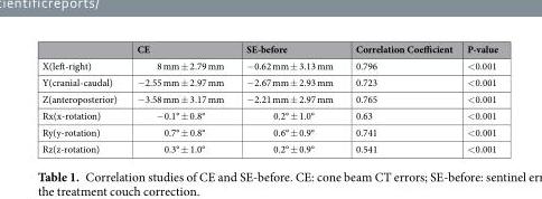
<table><thead><tr><td></td><td>CE</td><td>SE-before</td><td>Correlation Coefficient</td><td>P-value</td></tr></thead><tbody><tr><td>X(left-right)</td><td>8 mm ± 2.79 mm</td><td>−0.62 mm ± 3.13 mm</td><td>0.796</td><td>&lt;0.001</td></tr><tr><td>Y(cranial-caudal)</td><td>−2.55 mm ± 2.97 mm</td><td>−2.67 mm ± 2.93 mm</td><td>0.723</td><td>&lt;0.001</td></tr><tr><td>Z(anteroposterior)</td><td>−3.58 mm ± 3.17 mm</td><td>−2.21 mm ± 2.97 mm</td><td>0.765</td><td>&lt;0.001</td></tr><tr><td>Rx(x-rotation)</td><td>−0.1° ± 0.8°</td><td>0.2° ± 1.0°</td><td>0.63</td><td>&lt;0.001</td></tr><tr><td>Ry(y-rotation)</td><td>0.7° ± 0.8°</td><td>0.6° ± 0.9°</td><td>0.741</td><td>&lt;0.001</td></tr><tr><td>Rz(z-rotation)</td><td>0.3° ± 1.0°</td><td>0.2° ± 0.9°</td><td>0.541</td><td>&lt;0.001</td></tr></tbody></table>